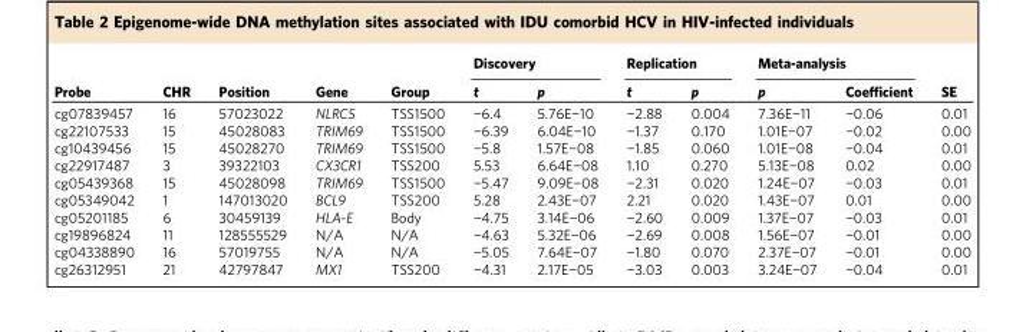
<table><thead><tr><td rowspan="2">Probe</td><td rowspan="2">CHR</td><td rowspan="2">Position</td><td rowspan="2">Gene</td><td rowspan="2">Group</td><td colspan="2">Discovery</td><td colspan="2">Replication</td><td colspan="2">Meta-analysis</td><td rowspan="2">SE</td></tr><tr><td>t</td><td>p</td><td>t</td><td>p</td><td>p</td><td>Coefficient</td></tr></thead><tbody><tr><td>cg07839457</td><td>16</td><td>57023022</td><td>NLRC5</td><td>TSS1500</td><td>−6.4</td><td>5.76E−10</td><td>−2.88</td><td>0.004</td><td>7.36E−11</td><td>−0.06</td><td>0.01</td></tr><tr><td>cg22107533</td><td>15</td><td>45028083</td><td>TRIM69</td><td>TSS1500</td><td>−6.39</td><td>6.04E−10</td><td>−1.37</td><td>0.170</td><td>1.01E−07</td><td>−0.02</td><td>0.00</td></tr><tr><td>cg10439456</td><td>15</td><td>45028270</td><td>TRIM69</td><td>TSS1500</td><td>−5.8</td><td>1.57E−08</td><td>−1.85</td><td>0.060</td><td>1.01E−08</td><td>−0.04</td><td>0.01</td></tr><tr><td>cg22917487</td><td>3</td><td>39322103</td><td>CX3CR1</td><td>TSS200</td><td>5.53</td><td>6.64E−08</td><td>1.10</td><td>0.270</td><td>5.13E−08</td><td>0.02</td><td>0.00</td></tr><tr><td>cg05439368</td><td>15</td><td>45028098</td><td>TRIM69</td><td>TSS1500</td><td>−5.47</td><td>9.09E−08</td><td>−2.31</td><td>0.020</td><td>1.24E−07</td><td>−0.03</td><td>0.01</td></tr><tr><td>cg05349042</td><td>1</td><td>147013020</td><td>BCL9</td><td>TSS200</td><td>5.28</td><td>2.43E−07</td><td>2.21</td><td>0.020</td><td>1.43E−07</td><td>0.01</td><td>0.00</td></tr><tr><td>cg05201185</td><td>6</td><td>30459139</td><td>HLA-E</td><td>Body</td><td>−4.75</td><td>3.14E−06</td><td>−2.60</td><td>0.009</td><td>1.37E−07</td><td>−0.03</td><td>0.01</td></tr><tr><td>cg19896824</td><td>11</td><td>128555529</td><td>N/A</td><td>N/A</td><td>−4.63</td><td>5.32E−06</td><td>−2.69</td><td>0.008</td><td>1.56E−07</td><td>−0.01</td><td>0.00</td></tr><tr><td>cg04338890</td><td>16</td><td>57019755</td><td>N/A</td><td>N/A</td><td>−5.05</td><td>7.64E−07</td><td>−1.80</td><td>0.070</td><td>2.37E−07</td><td>−0.01</td><td>0.00</td></tr><tr><td>cg26312951</td><td>21</td><td>42797847</td><td>MX1</td><td>TSS200</td><td>−4.31</td><td>2.17E−05</td><td>−3.03</td><td>0.003</td><td>3.24E−07</td><td>−0.04</td><td>0.01</td></tr></tbody></table>